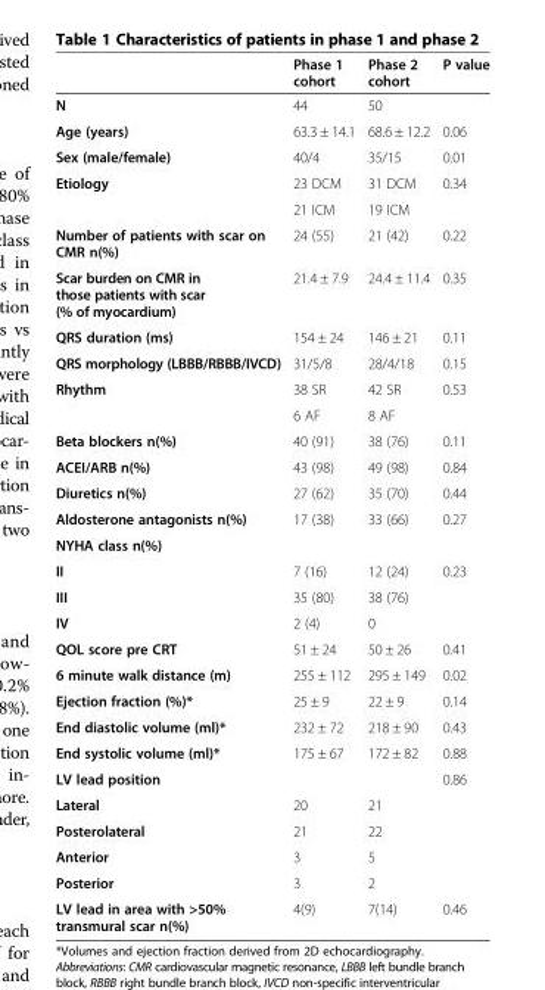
<table><thead><tr><td></td><td>Phase 1 cohort</td><td>Phase 2 cohort</td><td>P value</td></tr></thead><tbody><tr><td>N</td><td>44</td><td>50</td><td></td></tr><tr><td>Age (years)</td><td>63.3 ± 14.1</td><td>68.6 ± 12.2</td><td>0.06</td></tr><tr><td>Sex (male/female)</td><td>40/4</td><td>35/15</td><td>0.01</td></tr><tr><td rowspan="2">Etiology</td><td>23 DCM</td><td>31 DCM</td><td>0.34</td></tr><tr><td>21 ICM</td><td>19 ICM</td><td></td></tr><tr><td>Number of patients with scar on CMR n(%)</td><td>24 (55)</td><td>21 (42)</td><td>0.22</td></tr><tr><td>Scar burden on CMR in those patients with scar (% of myocardium)</td><td>21.4 ± 7.9</td><td>24.4 ± 11.4</td><td>0.35</td></tr><tr><td>QRS duration (ms)</td><td>154 ± 24</td><td>146 ± 21</td><td>0.11</td></tr><tr><td>QRS morphology (LBBB/RBBB/IVCD)</td><td>31/5/8</td><td>28/4/18</td><td>0.15</td></tr><tr><td rowspan="2">Rhythm</td><td>38 SR</td><td>42 SR</td><td>0.53</td></tr><tr><td>6 AF</td><td>8 AF</td><td></td></tr><tr><td>Beta blockers n(%)</td><td>40 (91)</td><td>38 (76)</td><td>0.11</td></tr><tr><td>ACEI/ARB n(%)</td><td>43 (98)</td><td>49 (98)</td><td>0.84</td></tr><tr><td>Diuretics n(%)</td><td>27 (62)</td><td>35 (70)</td><td>0.44</td></tr><tr><td>Aldosterone antagonists n(%)</td><td>17 (38)</td><td>33 (66)</td><td>0.27</td></tr><tr><td colspan="4">NYHA class n(%)</td></tr><tr><td>II</td><td>7 (16)</td><td>12 (24)</td><td>0.23</td></tr><tr><td>III</td><td>35 (80)</td><td>38 (76)</td><td></td></tr><tr><td>IV</td><td>2 (4)</td><td>0</td><td></td></tr><tr><td>QOL score pre CRT</td><td>51 ± 24</td><td>50 ± 26</td><td>0.41</td></tr><tr><td>6 minute walk distance (m)</td><td>255 ± 112</td><td>295 ± 149</td><td>0.02</td></tr><tr><td>Ejection fraction (%)*</td><td>25 ± 9</td><td>22 ± 9</td><td>0.14</td></tr><tr><td>End diastolic volume (ml)*</td><td>232 ± 72</td><td>218 ± 90</td><td>0.43</td></tr><tr><td>End systolic volume (ml)*</td><td>175 ± 67</td><td>172 ± 82</td><td>0.88</td></tr><tr><td>LV lead position</td><td></td><td></td><td>0.86</td></tr><tr><td>Lateral</td><td>20</td><td>21</td><td></td></tr><tr><td>Posterolateral</td><td>21</td><td>22</td><td></td></tr><tr><td>Anterior</td><td>3</td><td>5</td><td></td></tr><tr><td>Posterior</td><td>3</td><td>2</td><td></td></tr><tr><td>LV lead in area with &gt;50% transmural scar n(%)</td><td>4(9)</td><td>7(14)</td><td>0.46</td></tr></tbody></table>